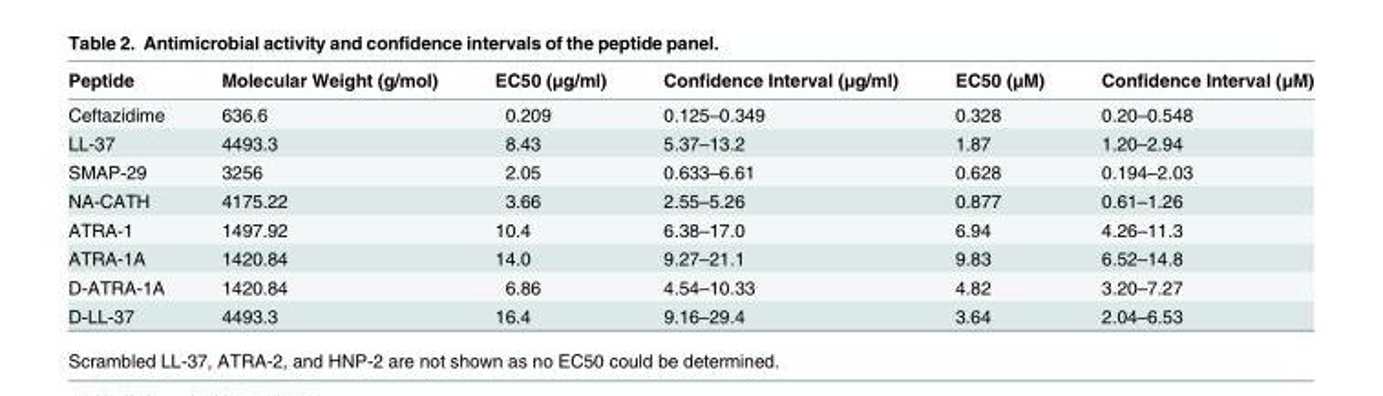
<table><thead><tr><td>Peptide</td><td>Molecular Weight (g/mol)</td><td>EC50 (μg/ml)</td><td>Confidence Interval (μg/ml)</td><td>EC50 (μM)</td><td>Confidence Interval (μM)</td></tr></thead><tbody><tr><td>Ceftazidime</td><td>636.6</td><td>0.209</td><td>0.125–0.349</td><td>0.328</td><td>0.20–0.548</td></tr><tr><td>LL-37</td><td>4493.3</td><td>8.43</td><td>5.37–13.2</td><td>1.87</td><td>1.20–2.94</td></tr><tr><td>SMAP-29</td><td>3256</td><td>2.05</td><td>0.633–6.61</td><td>0.628</td><td>0.194–2.03</td></tr><tr><td>NA-CATH</td><td>4175.22</td><td>3.66</td><td>2.55–5.26</td><td>0.877</td><td>0.61–1.26</td></tr><tr><td>ATRA-1</td><td>1497.92</td><td>10.4</td><td>6.38–17.0</td><td>6.94</td><td>4.26–11.3</td></tr><tr><td>ATRA-1A</td><td>1420.84</td><td>14.0</td><td>9.27–21.1</td><td>9.83</td><td>6.52–14.8</td></tr><tr><td>D-ATRA-1A</td><td>1420.84</td><td>6.86</td><td>4.54–10.33</td><td>4.82</td><td>3.20–7.27</td></tr><tr><td>D-LL-37</td><td>4493.3</td><td>16.4</td><td>9.16–29.4</td><td>3.64</td><td>2.04–6.53</td></tr></tbody></table>